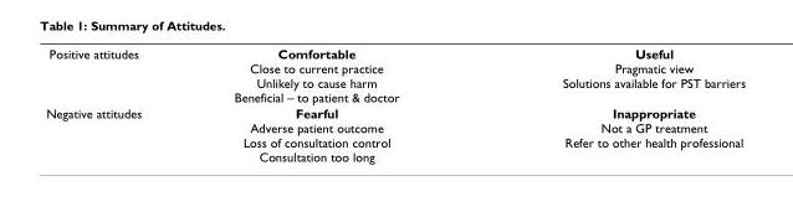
<table><tbody><tr><td>Positive attitudes</td><td>Comfortable Close to current practice Unlikely to cause harm Beneficial – to patient &amp; doctor</td><td>Useful Pragmatic view Solutions available for PST barriers</td></tr><tr><td>Negative attitudes</td><td>Fearful Adverse patient outcome Loss of consultation control Consultation too long</td><td>Inappropriate Not a GP treatment Refer to other health professional</td></tr></tbody></table>